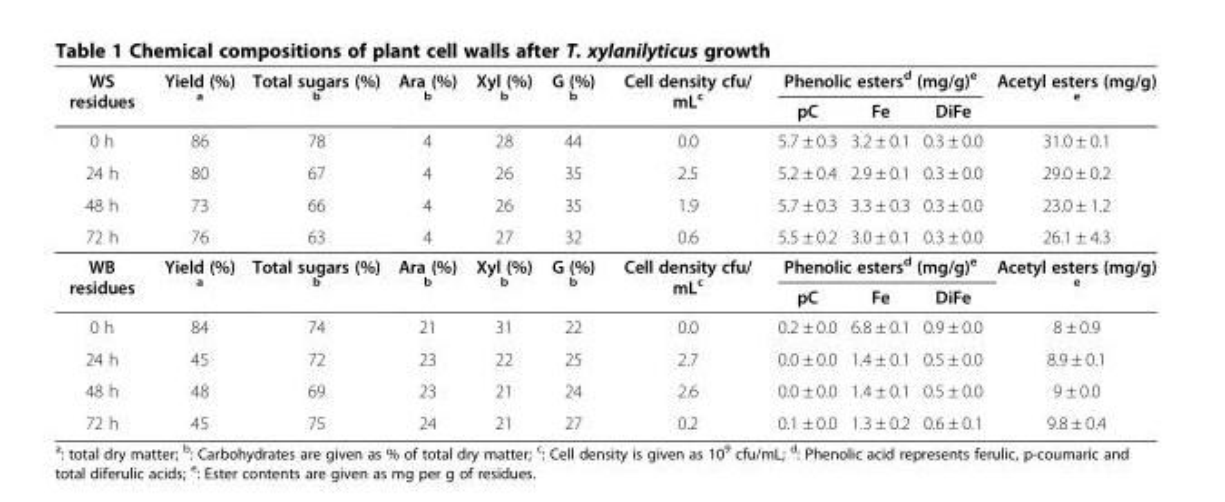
<table><thead><tr><td rowspan="2">WS residues</td><td rowspan="2">Yield (%) <sup>a</sup></td><td rowspan="2">Total sugars (%) <sup>b</sup></td><td rowspan="2">Ara (%) <sup>b</sup></td><td rowspan="2">Xyl (%) <sup>b</sup></td><td rowspan="2">G (%) <sup>b</sup></td><td rowspan="2">Cell density cfu/ mL<sup>c</sup></td><td colspan="3">Phenolic esters<sup>d</sup> (mg/g)<sup>e</sup></td><td rowspan="2">Acetyl esters (mg/g) <sup>e</sup></td></tr><tr><td>pC</td><td>Fe</td><td>DiFe</td></tr></thead><tbody><tr><td>0 h</td><td>86</td><td>78</td><td>4</td><td>28</td><td>44</td><td>0.0</td><td>5.7 ± 0.3</td><td>3.2 ± 0.1</td><td>0.3 ± 0.0</td><td>31.0 ± 0.1</td></tr><tr><td>24 h</td><td>80</td><td>67</td><td>4</td><td>26</td><td>35</td><td>2.5</td><td>5.2 ± 0.4</td><td>2.9 ± 0.1</td><td>0.3 ± 0.0</td><td>29.0 ± 0.2</td></tr><tr><td>48 h</td><td>73</td><td>66</td><td>4</td><td>26</td><td>35</td><td>1.9</td><td>5.7 ± 0.3</td><td>3.3 ± 0.3</td><td>0.3 ± 0.0</td><td>23.0 ± 1.2</td></tr><tr><td>72 h</td><td>76</td><td>63</td><td>4</td><td>27</td><td>32</td><td>0.6</td><td>5.5 ± 0.2</td><td>3.0 ± 0.1</td><td>0.3 ± 0.0</td><td>26.1 ± 4.3</td></tr><tr><td rowspan="2">WB residues</td><td rowspan="2">Yield (%) <sup>a</sup></td><td rowspan="2">Total sugars (%) <sup>b</sup></td><td rowspan="2">Ara (%) <sup>b</sup></td><td rowspan="2">Xyl (%) <sup>b</sup></td><td rowspan="2">G (%) <sup>b</sup></td><td rowspan="2">Cell density cfu/ mL<sup>c</sup></td><td colspan="3">Phenolic esters<sup>d</sup> (mg/g)<sup>e</sup></td><td rowspan="2">Acetyl esters (mg/g) <sup>e</sup></td></tr><tr><td>pC</td><td>Fe</td><td>DiFe</td></tr><tr><td>0 h</td><td>84</td><td>74</td><td>21</td><td>31</td><td>22</td><td>0.0</td><td>0.2 ± 0.0</td><td>6.8 ± 0.1</td><td>0.9 ± 0.0</td><td>8 ± 0.9</td></tr><tr><td>24 h</td><td>45</td><td>72</td><td>23</td><td>22</td><td>25</td><td>2.7</td><td>0.0 ± 0.0</td><td>1.4 ± 0.1</td><td>0.5 ± 0.0</td><td>8.9 ± 0.1</td></tr><tr><td>48 h</td><td>48</td><td>69</td><td>23</td><td>21</td><td>24</td><td>2.6</td><td>0.0 ± 0.0</td><td>1.4 ± 0.1</td><td>0.5 ± 0.0</td><td>9 ± 0.0</td></tr><tr><td>72 h</td><td>45</td><td>75</td><td>24</td><td>21</td><td>27</td><td>0.2</td><td>0.1 ± 0.0</td><td>1.3 ± 0.2</td><td>0.6 ± 0.1</td><td>9.8 ± 0.4</td></tr></tbody></table>